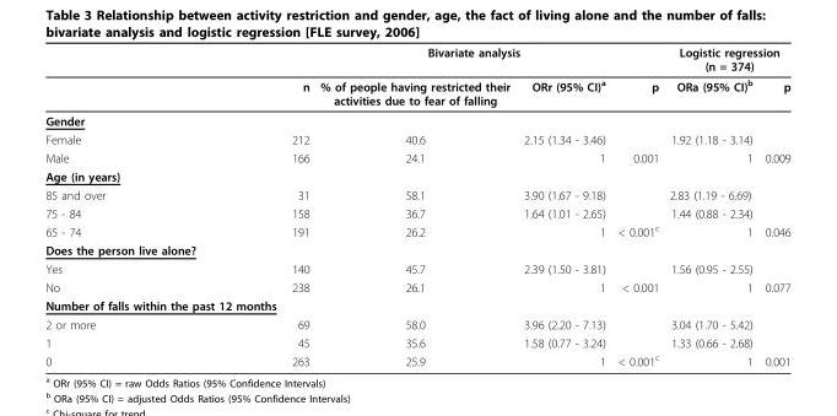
<table><thead><tr><td rowspan="2"></td><td colspan="4">Bivariate analysis</td><td colspan="2">Logistic regression (n = 374)</td></tr><tr><td>n</td><td>% of people having restricted their activities due to fear of falling</td><td>ORr (95% CI)<sup>a</sup></td><td>p</td><td>ORa (95% CI)<sup>b</sup></td><td>p</td></tr></thead><tbody><tr><td colspan="7">Gender</td></tr><tr><td>Female</td><td>212</td><td>40.6</td><td>2.15 (1.34 - 3.46)</td><td></td><td>1.92 (1.18 - 3.14)</td><td></td></tr><tr><td>Male</td><td>166</td><td>24.1</td><td>1</td><td>0.001</td><td>1</td><td>0.009</td></tr><tr><td colspan="7">Age (in years)</td></tr><tr><td>85 and over</td><td>31</td><td>58.1</td><td>3.90 (1.67 - 9.18)</td><td></td><td>2.83 (1.19 - 6.69)</td><td></td></tr><tr><td>75 - 84</td><td>158</td><td>36.7</td><td>1.64 (1.01 - 2.65)</td><td></td><td>1.44 (0.88 - 2.34)</td><td></td></tr><tr><td>65 - 74</td><td>191</td><td>26.2</td><td>1</td><td>&lt; 0.001<sup>c</sup></td><td>1</td><td>0.046</td></tr><tr><td colspan="7">Does the person live alone?</td></tr><tr><td>Yes</td><td>140</td><td>45.7</td><td>2.39 (1.50 - 3.81)</td><td></td><td>1.56 (0.95 - 2.55)</td><td></td></tr><tr><td>No</td><td>238</td><td>26.1</td><td>1</td><td>&lt; 0.001</td><td>1</td><td>0.077</td></tr><tr><td colspan="7">Number of falls within the past 12 months</td></tr><tr><td>2 or more</td><td>69</td><td>58.0</td><td>3.96 (2.20 - 7.13)</td><td></td><td>3.04 (1.70 - 5.42)</td><td></td></tr><tr><td>1</td><td>45</td><td>35.6</td><td>1.58 (0.77 - 3.24)</td><td></td><td>1.33 (0.66 - 2.68)</td><td></td></tr><tr><td>0</td><td>263</td><td>25.9</td><td>1</td><td>&lt; 0.001<sup>c</sup></td><td>1</td><td>0.001</td></tr></tbody></table>